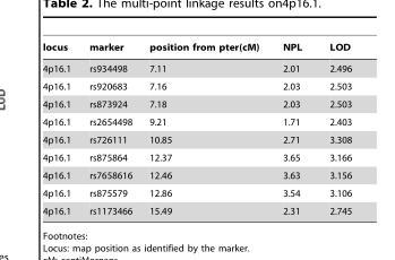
<table><thead><tr><td>locus</td><td>marker</td><td>position from pter(cM)</td><td>NPL</td><td>LOD</td></tr></thead><tbody><tr><td>4p16.1</td><td>rs934498</td><td>7.11</td><td>2.01</td><td>2.496</td></tr><tr><td>4p16.1</td><td>rs920683</td><td>7.16</td><td>2.03</td><td>2.503</td></tr><tr><td>4p16.1</td><td>rs873924</td><td>7.18</td><td>2.03</td><td>2.503</td></tr><tr><td>4p16.1</td><td>rs2654498</td><td>9.21</td><td>1.71</td><td>2.403</td></tr><tr><td>4p16.1</td><td>rs726111</td><td>10.85</td><td>2.71</td><td>3.308</td></tr><tr><td>4p16.1</td><td>rs875864</td><td>12.37</td><td>3.65</td><td>3.166</td></tr><tr><td>4p16.1</td><td>rs7658616</td><td>12.46</td><td>3.63</td><td>3.156</td></tr><tr><td>4p16.1</td><td>rs875579</td><td>12.86</td><td>3.54</td><td>3.106</td></tr><tr><td>4p16.1</td><td>rs1173466</td><td>15.49</td><td>2.31</td><td>2.745</td></tr></tbody></table>